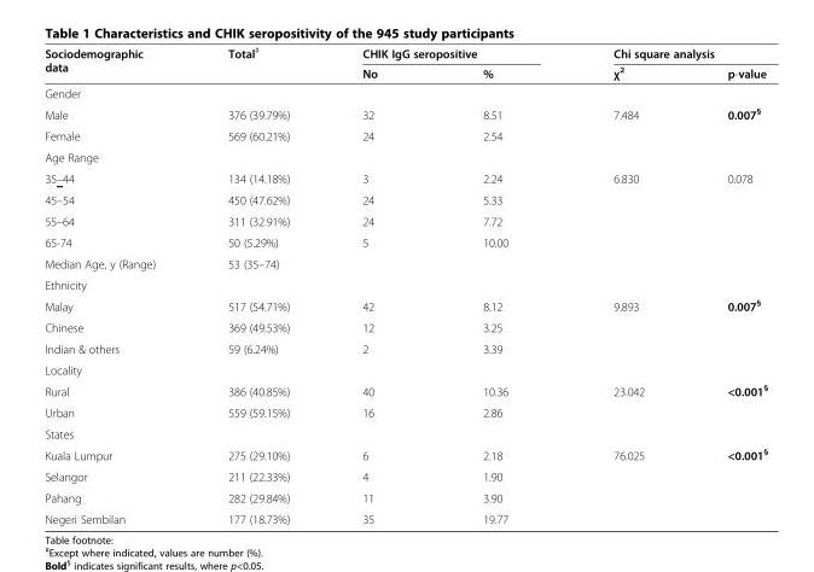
<table><thead><tr><td rowspan="2">Sociodemographic data</td><td rowspan="2">Total<sup>#</sup></td><td colspan="2">CHIK IgG seropositive</td><td colspan="2">Chi square analysis</td></tr><tr><td>No</td><td>%</td><td>χ<sup>2</sup></td><td>p-value</td></tr></thead><tbody><tr><td colspan="6">Gender</td></tr><tr><td>Male</td><td>376 (39.79%)</td><td>32</td><td>8.51</td><td>7.484</td><td>0.007<sup>§</sup></td></tr><tr><td>Female</td><td>569 (60.21%)</td><td>24</td><td>2.54</td><td></td><td></td></tr><tr><td colspan="6">Age Range</td></tr><tr><td>35–44</td><td>134 (14.18%)</td><td>3</td><td>2.24</td><td>6.830</td><td>0.078</td></tr><tr><td>45–54</td><td>450 (47.62%)</td><td>24</td><td>5.33</td><td></td><td></td></tr><tr><td>55–64</td><td>311 (32.91%)</td><td>24</td><td>7.72</td><td></td><td></td></tr><tr><td>65-74</td><td>50 (5.29%)</td><td>5</td><td>10.00</td><td></td><td></td></tr><tr><td>Median Age, y (Range)</td><td>53 (35–74)</td><td></td><td></td><td></td><td></td></tr><tr><td colspan="6">Ethnicity</td></tr><tr><td>Malay</td><td>517 (54.71%)</td><td>42</td><td>8.12</td><td>9.893</td><td>0.007<sup>§</sup></td></tr><tr><td>Chinese</td><td>369 (49.53%)</td><td>12</td><td>3.25</td><td></td><td></td></tr><tr><td>Indian &amp; others</td><td>59 (6.24%)</td><td>2</td><td>3.39</td><td></td><td></td></tr><tr><td colspan="6">Locality</td></tr><tr><td>Rural</td><td>386 (40.85%)</td><td>40</td><td>10.36</td><td>23.042</td><td>&lt;0.001<sup>§</sup></td></tr><tr><td>Urban</td><td>559 (59.15%)</td><td>16</td><td>2.86</td><td></td><td></td></tr><tr><td colspan="6">States</td></tr><tr><td>Kuala Lumpur</td><td>275 (29.10%)</td><td>6</td><td>2.18</td><td>76.025</td><td>&lt;0.001<sup>§</sup></td></tr><tr><td>Selangor</td><td>211 (22.33%)</td><td>4</td><td>1.90</td><td></td><td></td></tr><tr><td>Pahang</td><td>282 (29.84%)</td><td>11</td><td>3.90</td><td></td><td></td></tr><tr><td>Negeri Sembilan</td><td>177 (18.73%)</td><td>35</td><td>19.77</td><td></td><td></td></tr></tbody></table>